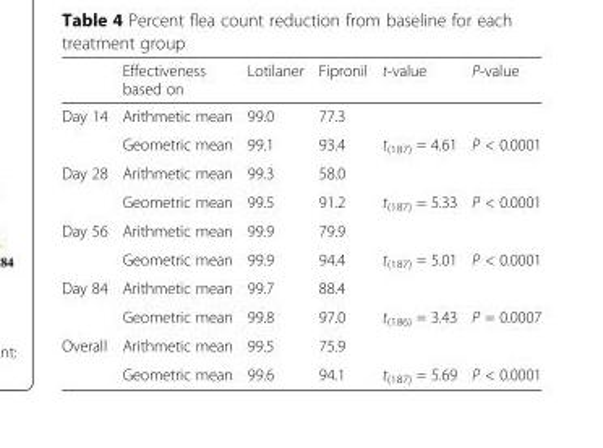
<table><thead><tr><td></td><td>Effectiveness based on</td><td>Lotilaner</td><td>Fipronil</td><td>t-value</td><td>P-value</td></tr></thead><tbody><tr><td rowspan="2">Day 14</td><td>Arithmetic mean</td><td>99.0</td><td>77.3</td><td></td><td></td></tr><tr><td>Geometric mean</td><td>99.1</td><td>93.4</td><td>t<sub>(187)</sub> = 4.61</td><td>P &lt; 0.0001</td></tr><tr><td rowspan="2">Day 28</td><td>Arithmetic mean</td><td>99.3</td><td>58.0</td><td></td><td></td></tr><tr><td>Geometric mean</td><td>99.5</td><td>91.2</td><td>t<sub>(187)</sub> = 5.33</td><td>P &lt; 0.0001</td></tr><tr><td rowspan="2">Day 56</td><td>Arithmetic mean</td><td>99.9</td><td>79.9</td><td></td><td></td></tr><tr><td>Geometric mean</td><td>99.9</td><td>94.4</td><td>t<sub>(187)</sub> = 5.01</td><td>P &lt; 0.0001</td></tr><tr><td rowspan="2">Day 84</td><td>Arithmetic mean</td><td>99.7</td><td>88.4</td><td></td><td></td></tr><tr><td>Geometric mean</td><td>99.8</td><td>97.0</td><td>t<sub>(186)</sub> = 3.43</td><td>P = 0.0007</td></tr><tr><td rowspan="2">Overall</td><td>Arithmetic mean</td><td>99.5</td><td>75.9</td><td></td><td></td></tr><tr><td>Geometric mean</td><td>99.6</td><td>94.1</td><td>t<sub>(187)</sub> = 5.69</td><td>P &lt; 0.0001</td></tr></tbody></table>